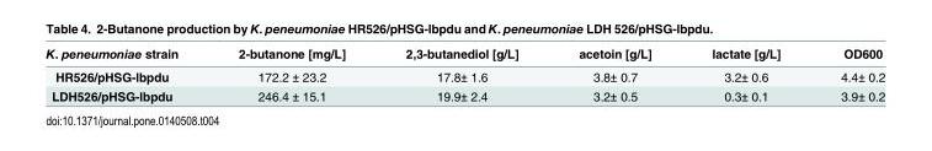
<table><thead><tr><td>K. peneumoniae strain</td><td>2-butanone [mg/L]</td><td>2,3-butanediol [g/L]</td><td>acetoin [g/L]</td><td>lactate [g/L]</td><td>OD600</td></tr></thead><tbody><tr><td>HR526/pHSG-lbpdu</td><td>172.2 ± 23.2</td><td>17.8± 1.6</td><td>3.8± 0.7</td><td>3.2± 0.6</td><td>4.4± 0.2</td></tr><tr><td>LDH526/pHSG-lbpdu</td><td>246.4 ± 15.1</td><td>19.9± 2.4</td><td>3.2± 0.5</td><td>0.3± 0.1</td><td>3.9± 0.2</td></tr></tbody></table>